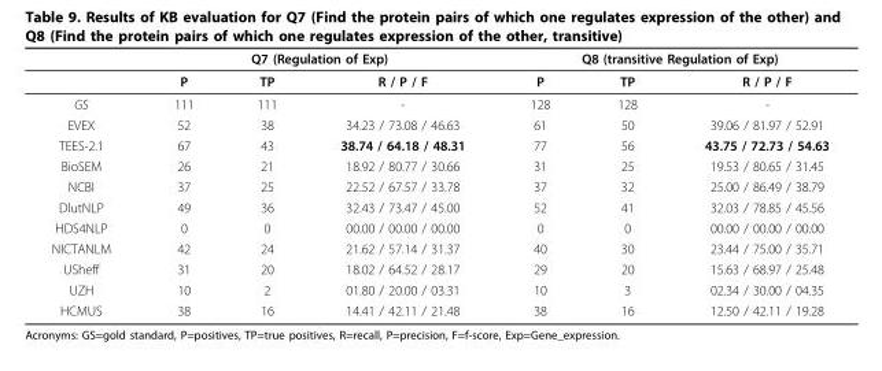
<table><thead><tr><td rowspan="2"></td><td colspan="3">Q7 (Regulation of Exp)</td><td colspan="3">Q8 (transitive Regulation of Exp)</td></tr><tr><td>P</td><td>TP</td><td>R / P / F</td><td>P</td><td>TP</td><td>R / P / F</td></tr></thead><tbody><tr><td>GS</td><td>111</td><td>111</td><td>-</td><td>128</td><td>128</td><td>-</td></tr><tr><td>EVEX</td><td>52</td><td>38</td><td>34.23 / 73.08 / 46.63</td><td>61</td><td>50</td><td>39.06 / 81.97 / 52.91</td></tr><tr><td>TEES-2.1</td><td>67</td><td>43</td><td>38.74 / 64.18 / 48.31</td><td>77</td><td>56</td><td>43.75 / 72.73 / 54.63</td></tr><tr><td>BioSEM</td><td>26</td><td>21</td><td>18.92 / 80.77 / 30.66</td><td>31</td><td>25</td><td>19.53 / 80.65 / 31.45</td></tr><tr><td>NCBI</td><td>37</td><td>25</td><td>22.52 / 67.57 / 33.78</td><td>37</td><td>32</td><td>25.00 / 86.49 / 38.79</td></tr><tr><td>DlutNLP</td><td>49</td><td>36</td><td>32.43 / 73.47 / 45.00</td><td>52</td><td>41</td><td>32.03 / 78.85 / 45.56</td></tr><tr><td>HDS4NLP</td><td>0</td><td>0</td><td>00.00 / 00.00 / 00.00</td><td>0</td><td>0</td><td>00.00 / 00.00 / 00.00</td></tr><tr><td>NICTANLM</td><td>42</td><td>24</td><td>21.62 / 57.14 / 31.37</td><td>40</td><td>30</td><td>23.44 / 75.00 / 35.71</td></tr><tr><td>USheff</td><td>31</td><td>20</td><td>18.02 / 64.52 / 28.17</td><td>29</td><td>20</td><td>15.63 / 68.97 / 25.48</td></tr><tr><td>UZH</td><td>10</td><td>2</td><td>01.80 / 20.00 / 03.31</td><td>10</td><td>3</td><td>02.34 / 30.00 / 04.35</td></tr><tr><td>HCMUS</td><td>38</td><td>16</td><td>14.41 / 42.11 / 21.48</td><td>38</td><td>16</td><td>12.50 / 42.11 / 19.28</td></tr></tbody></table>